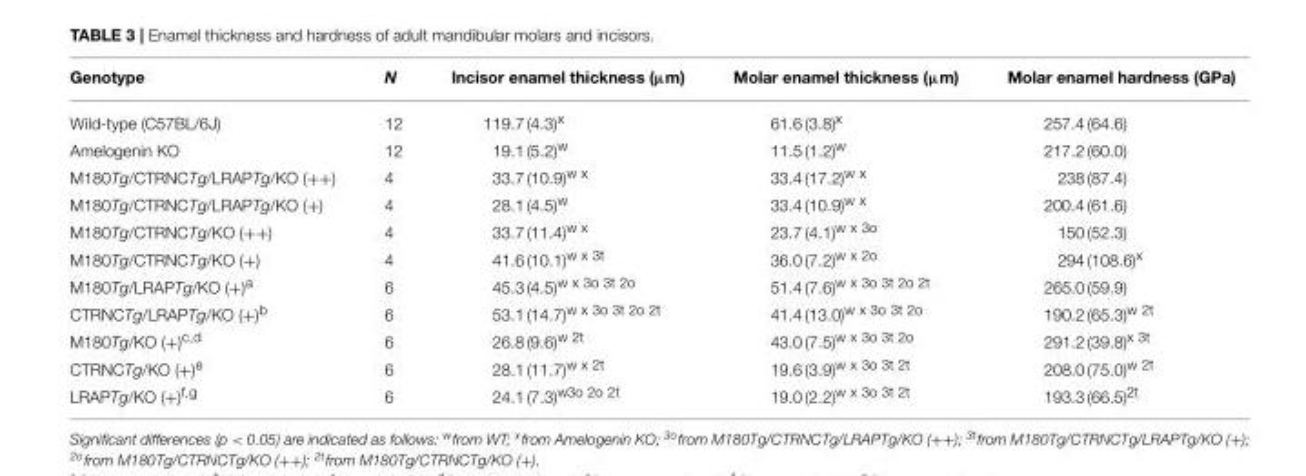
<table><thead><tr><td>Genotype</td><td>N</td><td>Incisor enamel thickness (µm)</td><td>Molar enamel thickness (µm)</td><td>Molar enamel hardness (GPa)</td></tr></thead><tbody><tr><td>Wild-type (C57BL/6J)</td><td>12</td><td>119.7 (4.3)<sup>x</sup></td><td>61.6 (3.8)<sup>x</sup></td><td>257.4 (64.6)</td></tr><tr><td>Amelogenin KO</td><td>12</td><td>19.1 (5.2)<sup>w</sup></td><td>11.5 (1.2)<sup>w</sup></td><td>217.2 (60.0)</td></tr><tr><td>M180Tg/CTRNCTg/LRAPTg/KO (++)</td><td>4</td><td>33.7 (10.9)<sup>w x</sup></td><td>33.4 (17.2)<sup>w x</sup></td><td>238 (87.4)</td></tr><tr><td>M180Tg/CTRNCTg/LRAPTg/KO (+)</td><td>4</td><td>28.1 (4.5)<sup>w</sup></td><td>33.4 (10.9)<sup>w x</sup></td><td>200.4 (61.6)</td></tr><tr><td>M180Tg/CTRNCTg/KO (++)</td><td>4</td><td>33.7 (11.4)<sup>w x</sup></td><td>23.7 (4.1)<sup>w x 3o</sup></td><td>150 (52.3)</td></tr><tr><td>M180Tg/CTRNCTg/KO (+)</td><td>4</td><td>41.6 (10.1)<sup>w x 3t</sup></td><td>36.0 (7.2)<sup>w x 2o</sup></td><td>294 (108.6)<sup>x</sup></td></tr><tr><td>M180Tg/LRAPTg/KO (+)<sup>a</sup></td><td>6</td><td>45.3 (4.5)<sup>w x 3o 3t 2o</sup></td><td>51.4 (7.6)<sup>w x 3o 3t 2o 2t</sup></td><td>265.0 (59.9)</td></tr><tr><td>CTRNCTg/LRAPTg/KO (+)<sup>b</sup></td><td>6</td><td>53.1 (14.7)<sup>w x 3o 3t 2o 2t</sup></td><td>41.4 (13.0)<sup>w x 3o 3t 2o</sup></td><td>190.2 (65.3)<sup>w 2t</sup></td></tr><tr><td>M180Tg/KO (+)<sup>c,d</sup></td><td>6</td><td>26.8 (9.6)<sup>w 2t</sup></td><td>43.0 (7.5)<sup>w x 3o 3t 2o</sup></td><td>291.2 (39.8)<sup>x 3t</sup></td></tr><tr><td>CTRNCTg/KO (+)<sup>e</sup></td><td>6</td><td>28.1 (11.7)<sup>w x 2t</sup></td><td>19.6 (3.9)<sup>w x 3o 3t 2t</sup></td><td>208.0 (75.0)<sup>w 2t</sup></td></tr><tr><td>LRAPTg/KO (+)<sup>f,g</sup></td><td>6</td><td>24.1 (7.3)<sup>w3o 2o 2t</sup></td><td>19.0 (2.2)<sup>w x 3o 3t 2t</sup></td><td>193.3 (66.5)<sup>2t</sup></td></tr></tbody></table>